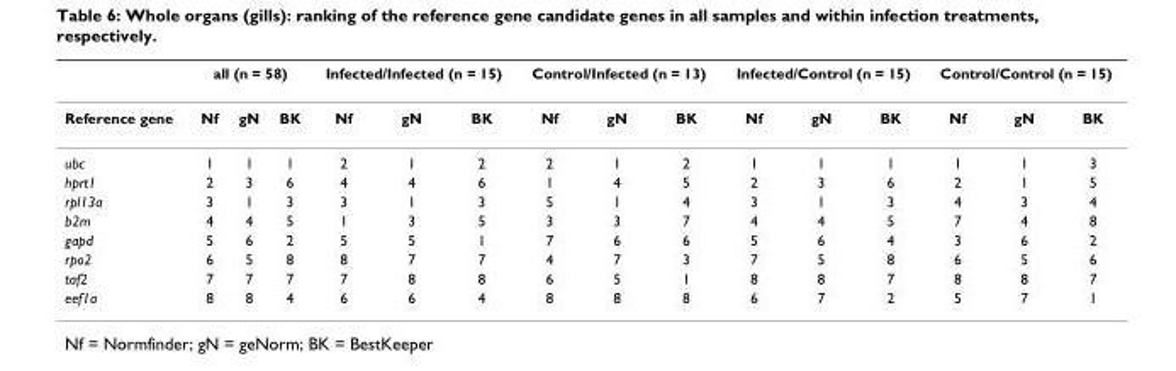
<table><thead><tr><td rowspan="2">Reference gene</td><td colspan="3">all (n = 58)</td><td colspan="3">Infected/Infected (n = 15)</td><td colspan="3">Control/Infected (n = 13)</td><td colspan="3">Infected/Control (n = 15)</td><td colspan="3">Control/Control (n = 15)</td></tr><tr><td>Nf</td><td>gN</td><td>BK</td><td>Nf</td><td>gN</td><td>BK</td><td>Nf</td><td>gN</td><td>BK</td><td>Nf</td><td>gN</td><td>BK</td><td>Nf</td><td>gN</td><td>BK</td></tr></thead><tbody><tr><td>ubc</td><td>1</td><td>1</td><td>1</td><td>2</td><td>1</td><td>2</td><td>2</td><td>1</td><td>2</td><td>1</td><td>1</td><td>1</td><td>1</td><td>1</td><td>3</td></tr><tr><td>hprt1</td><td>2</td><td>3</td><td>6</td><td>4</td><td>4</td><td>6</td><td>1</td><td>4</td><td>5</td><td>2</td><td>3</td><td>6</td><td>2</td><td>1</td><td>5</td></tr><tr><td>rpl13a</td><td>3</td><td>1</td><td>3</td><td>3</td><td>1</td><td>3</td><td>5</td><td>1</td><td>4</td><td>3</td><td>1</td><td>3</td><td>4</td><td>3</td><td>4</td></tr><tr><td>b2m</td><td>4</td><td>4</td><td>5</td><td>1</td><td>3</td><td>5</td><td>3</td><td>3</td><td>7</td><td>4</td><td>4</td><td>5</td><td>7</td><td>4</td><td>8</td></tr><tr><td>gapd</td><td>5</td><td>6</td><td>2</td><td>5</td><td>5</td><td>1</td><td>7</td><td>6</td><td>6</td><td>5</td><td>6</td><td>4</td><td>3</td><td>6</td><td>2</td></tr><tr><td>rpo2</td><td>6</td><td>5</td><td>8</td><td>8</td><td>7</td><td>7</td><td>4</td><td>7</td><td>3</td><td>7</td><td>5</td><td>8</td><td>6</td><td>5</td><td>6</td></tr><tr><td>taf2</td><td>7</td><td>7</td><td>7</td><td>7</td><td>8</td><td>8</td><td>6</td><td>5</td><td>1</td><td>8</td><td>8</td><td>7</td><td>8</td><td>8</td><td>7</td></tr><tr><td>eef1a</td><td>8</td><td>8</td><td>4</td><td>6</td><td>6</td><td>4</td><td>8</td><td>8</td><td>8</td><td>6</td><td>7</td><td>2</td><td>5</td><td>7</td><td>1</td></tr></tbody></table>